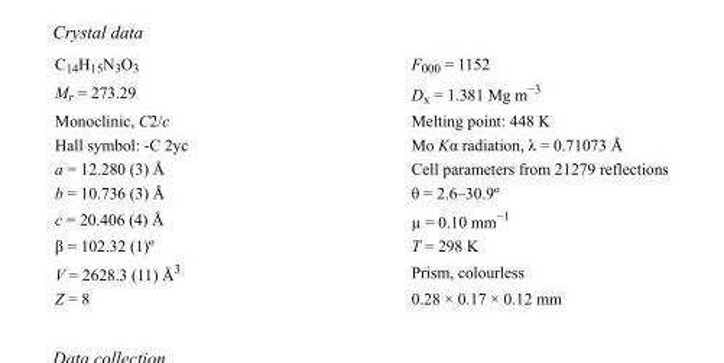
<table><tbody><tr><td>C<sub>14</sub>H<sub>15</sub>N<sub>3</sub>O<sub>3</sub></td><td>F000 = 1152</td></tr><tr><td>M<sub>r</sub> = 273.29</td><td>D<sub>x</sub> = 1.381 Mg m<sup>−3</sup></td></tr><tr><td>Monoclinic, C2/c</td><td>Melting point: 448 K</td></tr><tr><td>Hall symbol: -C 2yc</td><td>Mo Kα radiation, λ = 0.71073 Å</td></tr><tr><td>a = 12.280 (3) Å</td><td>Cell parameters from 21279 reflections</td></tr><tr><td>b = 10.736 (3) Å</td><td>θ = 2.6–30.9º</td></tr><tr><td>c = 20.406 (4) Å</td><td>µ = 0.10 mm<sup>−1</sup></td></tr><tr><td>β = 102.32 (1)º</td><td>T = 298 K</td></tr><tr><td>V = 2628.3 (11) Å<sup>3</sup></td><td>Prism, colourless</td></tr><tr><td>Z = 8</td><td>0.28 × 0.17 × 0.12 mm</td></tr></tbody></table>